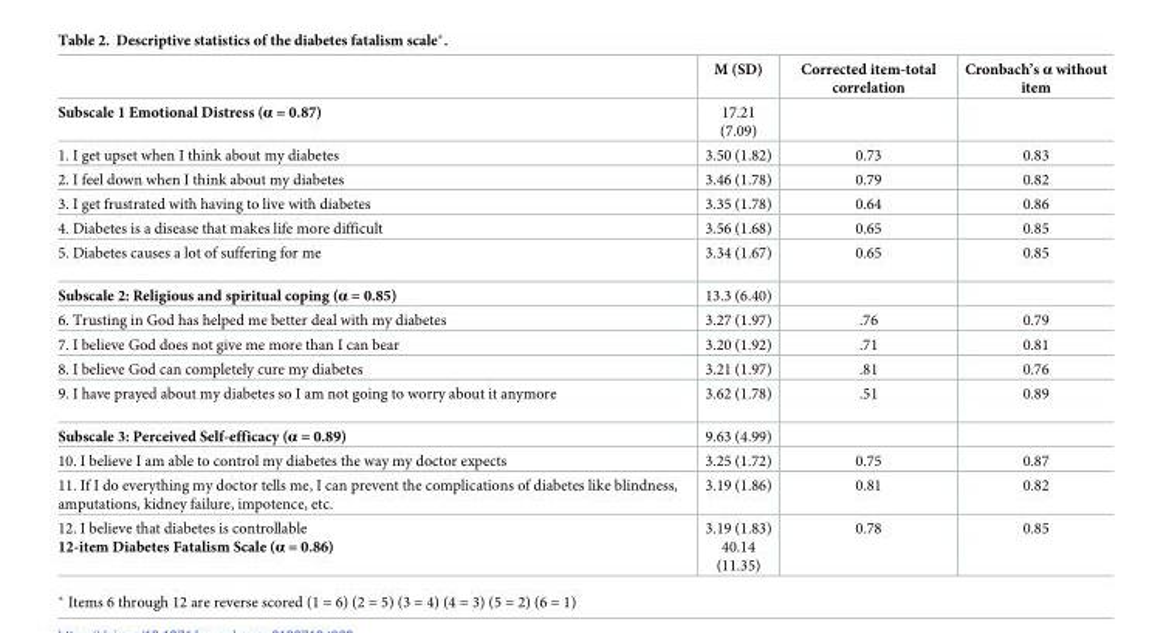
<table><thead><tr><td></td><td>M (SD)</td><td>Corrected item-total correlation</td><td>Cronbach’s α without item</td></tr></thead><tbody><tr><td>Subscale 1 Emotional Distress (α = 0.87)</td><td>17.21 (7.09)</td><td></td><td></td></tr><tr><td>1. I get upset when I think about my diabetes</td><td>3.50 (1.82)</td><td>0.73</td><td>0.83</td></tr><tr><td>2. I feel down when I think about my diabetes</td><td>3.46 (1.78)</td><td>0.79</td><td>0.82</td></tr><tr><td>3. I get frustrated with having to live with diabetes</td><td>3.35 (1.78)</td><td>0.64</td><td>0.86</td></tr><tr><td>4. Diabetes is a disease that makes life more difficult</td><td>3.56 (1.68)</td><td>0.65</td><td>0.85</td></tr><tr><td>5. Diabetes causes a lot of suffering for me</td><td>3.34 (1.67)</td><td>0.65</td><td>0.85</td></tr><tr><td>Subscale 2: Religious and spiritual coping (α = 0.85)</td><td>13.3 (6.40)</td><td></td><td></td></tr><tr><td>6. Trusting in God has helped me better deal with my diabetes</td><td>3.27 (1.97)</td><td>.76</td><td>0.79</td></tr><tr><td>7. I believe God does not give me more than I can bear</td><td>3.20 (1.92)</td><td>.71</td><td>0.81</td></tr><tr><td>8. I believe God can completely cure my diabetes</td><td>3.21 (1.97)</td><td>.81</td><td>0.76</td></tr><tr><td>9. I have prayed about my diabetes so I am not going to worry about it anymore</td><td>3.62 (1.78)</td><td>.51</td><td>0.89</td></tr><tr><td>Subscale 3: Perceived Self-efficacy (α = 0.89)</td><td>9.63 (4.99)</td><td></td><td></td></tr><tr><td>10. I believe I am able to control my diabetes the way my doctor expects</td><td>3.25 (1.72)</td><td>0.75</td><td>0.87</td></tr><tr><td>11. If I do everything my doctor tells me, I can prevent the complications of diabetes like blindness, amputations, kidney failure, impotence, etc.</td><td>3.19 (1.86)</td><td>0.81</td><td>0.82</td></tr><tr><td>12. I believe that diabetes is controllable 12-item Diabetes Fatalism Scale (α = 0.86)</td><td>3.19 (1.83) 40.14 (11.35)</td><td>0.78</td><td>0.85</td></tr></tbody></table>